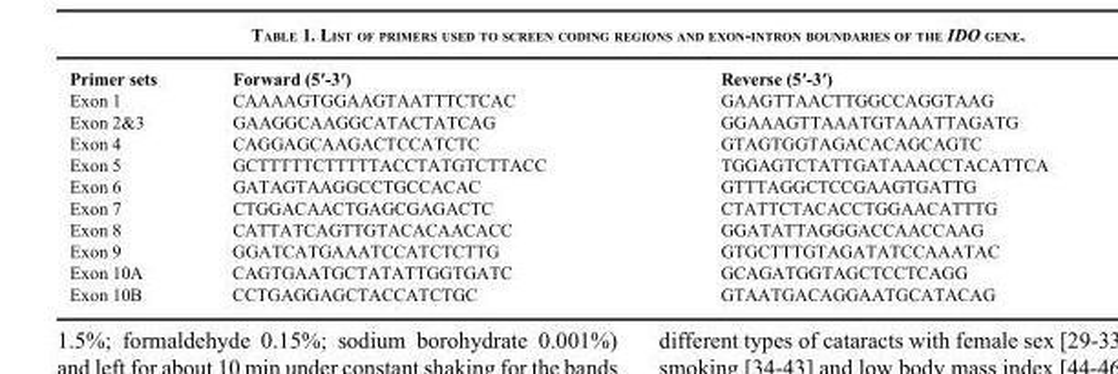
<table><thead><tr><td>Primer sets</td><td>Forward (5′-3′)</td><td>Reverse (5′-3′)</td></tr></thead><tbody><tr><td>Exon 1</td><td>CAAAAGTGGAAGTAATTTCTCAC</td><td>GAAGTTAACTTGGCCAGGTAAG</td></tr><tr><td>Exon 2&amp;3</td><td>GAAGGCAAGGCATACTATCAG</td><td>GGAAAGTTAAATGTAAATTAGATG</td></tr><tr><td>Exon 4</td><td>CAGGAGCAAGACTCCATCTC</td><td>GTAGTGGTAGACACAGCAGTC</td></tr><tr><td>Exon 5</td><td>GCTTTTTCTTTTTACCTATGTCTTACC</td><td>TGGAGTCTATTGATAAACCTACATTCA</td></tr><tr><td>Exon 6</td><td>GATAGTAAGGCCTGCCACAC</td><td>GTTTAGGCTCCGAAGTGATTG</td></tr><tr><td>Exon 7</td><td>CTGGACAACTGAGCGAGACTC</td><td>CTATTCTACACCTGGAACATTTG</td></tr><tr><td>Exon 8</td><td>CATTATCAGTTGTACACAACACC</td><td>GGATATTAGGGACCAACCAAG</td></tr><tr><td>Exon 9</td><td>GGATCATGAAATCCATCTCTTG</td><td>GTGCTTTGTAGATATCCAAATAC</td></tr><tr><td>Exon 10A</td><td>CAGTGAATGCTATATTGGTGATC</td><td>GCAGATGGTAGCTCCTCAGG</td></tr><tr><td>Exon 10B</td><td>CCTGAGGAGCTACCATCTGC</td><td>GTAATGACAGGAATGCATACAG</td></tr></tbody></table>